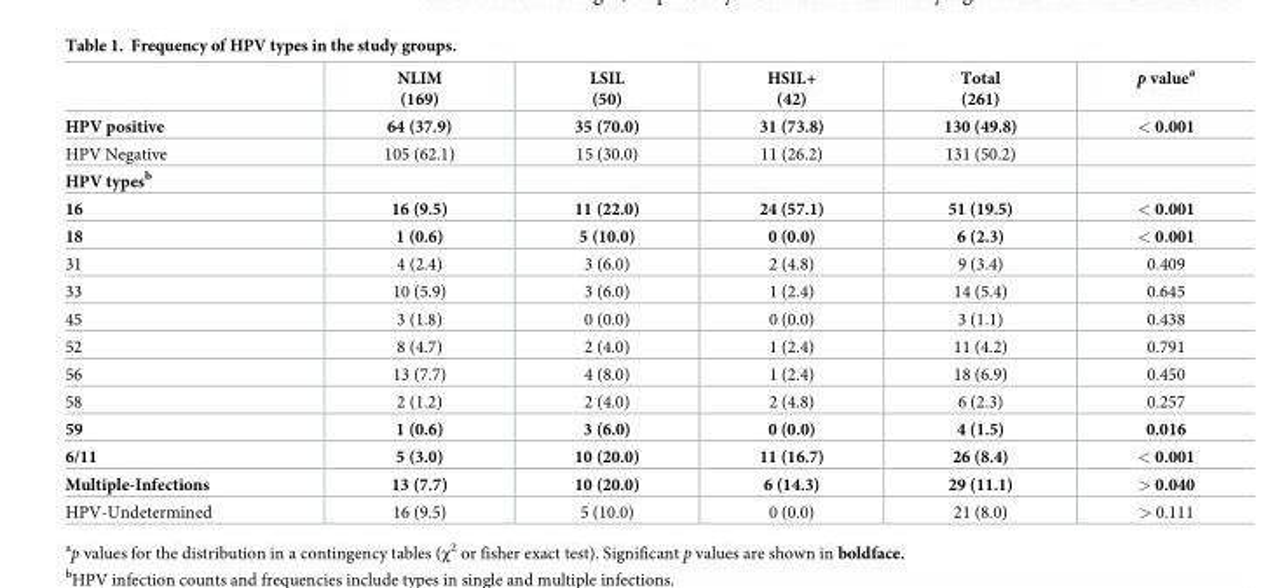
<table><thead><tr><td></td><td>NLIM (169)</td><td>LSIL (50)</td><td>HSIL+ (42)</td><td>Total (261)</td><td>p value<sup>a</sup></td></tr></thead><tbody><tr><td>HPV positive</td><td>64 (37.9)</td><td>35 (70.0)</td><td>31 (73.8)</td><td>130 (49.8)</td><td>&lt; 0.001</td></tr><tr><td>HPV Negative</td><td>105 (62.1)</td><td>15 (30.0)</td><td>11 (26.2)</td><td>131 (50.2)</td><td></td></tr><tr><td colspan="6">HPV types<sup>b</sup></td></tr><tr><td>16</td><td>16 (9.5)</td><td>11 (22.0)</td><td>24 (57.1)</td><td>51 (19.5)</td><td>&lt; 0.001</td></tr><tr><td>18</td><td>1 (0.6)</td><td>5 (10.0)</td><td>0 (0.0)</td><td>6 (2.3)</td><td>&lt; 0.001</td></tr><tr><td>31</td><td>4 (2.4)</td><td>3 (6.0)</td><td>2 (4.8)</td><td>9 (3.4)</td><td>0.409</td></tr><tr><td>33</td><td>10 (5.9)</td><td>3 (6.0)</td><td>1 (2.4)</td><td>14 (5.4)</td><td>0.645</td></tr><tr><td>45</td><td>3 (1.8)</td><td>0 (0.0)</td><td>0 (0.0)</td><td>3 (1.1)</td><td>0.438</td></tr><tr><td>52</td><td>8 (4.7)</td><td>2 (4.0)</td><td>1 (2.4)</td><td>11 (4.2)</td><td>0.791</td></tr><tr><td>56</td><td>13 (7.7)</td><td>4 (8.0)</td><td>1 (2.4)</td><td>18 (6.9)</td><td>0.450</td></tr><tr><td>58</td><td>2 (1.2)</td><td>2 (4.0)</td><td>2 (4.8)</td><td>6 (2.3)</td><td>0.257</td></tr><tr><td>59</td><td>1 (0.6)</td><td>3 (6.0)</td><td>0 (0.0)</td><td>4 (1.5)</td><td>0.016</td></tr><tr><td>6/11</td><td>5 (3.0)</td><td>10 (20.0)</td><td>11 (16.7)</td><td>26 (8.4)</td><td>&lt; 0.001</td></tr><tr><td>Multiple-Infections</td><td>13 (7.7)</td><td>10 (20.0)</td><td>6 (14.3)</td><td>29 (11.1)</td><td>&gt; 0.040</td></tr><tr><td>HPV-Undetermined</td><td>16 (9.5)</td><td>5 (10.0)</td><td>0 (0.0)</td><td>21 (8.0)</td><td>&gt; 0.111</td></tr></tbody></table>